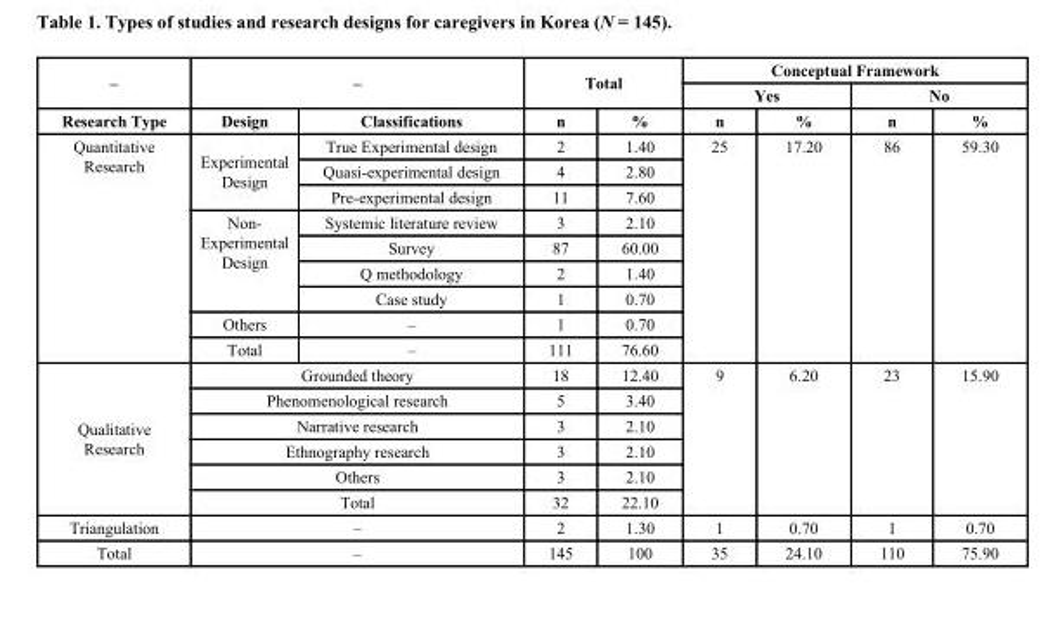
<table><thead><tr><td rowspan="3">– Research Type</td><td rowspan="2" colspan="2">–</td><td rowspan="2" colspan="2">Total</td><td colspan="4">Conceptual Framework</td></tr><tr><td colspan="2">Yes</td><td colspan="2">No</td></tr><tr><td>Design</td><td>Classifications</td><td>n</td><td>%</td><td>n</td><td>%</td><td>n</td><td>%</td></tr></thead><tbody><tr><td rowspan="9">Quantitative Research</td><td rowspan="3">Experimental Design</td><td>True Experimental design</td><td>2</td><td>1.40</td><td rowspan="9">25</td><td rowspan="9">17.20</td><td rowspan="9">86</td><td rowspan="9">59.30</td></tr><tr><td>Quasi-experimental design</td><td>4</td><td>2.80</td></tr><tr><td>Pre-experimental design</td><td>11</td><td>7.60</td></tr><tr><td rowspan="4">Non- Experimental Design</td><td>Systemic literature review</td><td>3</td><td>2.10</td></tr><tr><td>Survey</td><td>87</td><td>60.00</td></tr><tr><td>Q methodology</td><td>2</td><td>1.40</td></tr><tr><td>Case study</td><td>1</td><td>0.70</td></tr><tr><td>Others</td><td>–</td><td>1</td><td>0.70</td></tr><tr><td>Total</td><td>–</td><td>111</td><td>76.60</td></tr><tr><td rowspan="6">Qualitative Research</td><td colspan="2">Grounded theory</td><td>18</td><td>12.40</td><td rowspan="6">9</td><td rowspan="6">6.20</td><td rowspan="6">23</td><td rowspan="6">15.90</td></tr><tr><td colspan="2">Phenomenological research</td><td>5</td><td>3.40</td></tr><tr><td colspan="2">Narrative research</td><td>3</td><td>2.10</td></tr><tr><td colspan="2">Ethnography research</td><td>3</td><td>2.10</td></tr><tr><td colspan="2">Others</td><td>3</td><td>2.10</td></tr><tr><td colspan="2">Total</td><td>32</td><td>22.10</td></tr><tr><td>Triangulation</td><td colspan="2">–</td><td>2</td><td>1.30</td><td>1</td><td>0.70</td><td>1</td><td>0.70</td></tr><tr><td>Total</td><td colspan="2">–</td><td>145</td><td>100</td><td>35</td><td>24.10</td><td>110</td><td>75.90</td></tr></tbody></table>